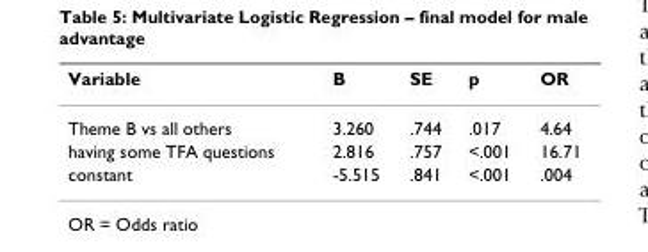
<table><thead><tr><td>Variable</td><td>B</td><td>SE</td><td>p</td><td>OR</td></tr></thead><tbody><tr><td>Theme B vs all others</td><td>3.260</td><td>.744</td><td>.017</td><td>4.64</td></tr><tr><td>having some TFA questions</td><td>2.816</td><td>.757</td><td>&lt;.001</td><td>16.71</td></tr><tr><td>constant</td><td>-5.515</td><td>.841</td><td>&lt;.001</td><td>.004</td></tr></tbody></table>